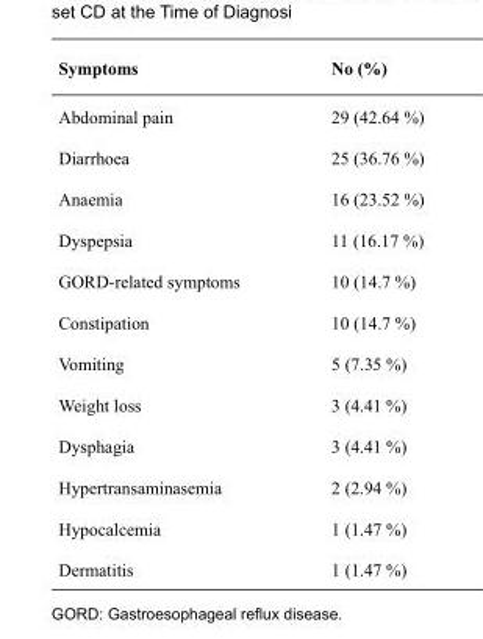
<table><thead><tr><td>Symptoms</td><td>No (%)</td></tr></thead><tbody><tr><td>Abdominal pain</td><td>29 (42.64 %)</td></tr><tr><td>Diarrhoea</td><td>25 (36.76 %)</td></tr><tr><td>Anaemia</td><td>16 (23.52 %)</td></tr><tr><td>Dyspepsia</td><td>11 (16.17 %)</td></tr><tr><td>GORD-related symptoms</td><td>10 (14.7 %)</td></tr><tr><td>Constipation</td><td>10 (14.7 %)</td></tr><tr><td>Vomiting</td><td>5 (7.35 %)</td></tr><tr><td>Weight loss</td><td>3 (4.41 %)</td></tr><tr><td>Dysphagia</td><td>3 (4.41 %)</td></tr><tr><td>Hypertransaminasemia</td><td>2 (2.94 %)</td></tr><tr><td>Hypocalcemia</td><td>1 (1.47 %)</td></tr><tr><td>Dermatitis</td><td>1 (1.47 %)</td></tr></tbody></table>